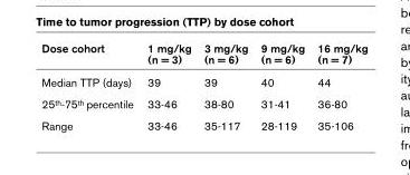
<table><thead><tr><td>Dose cohort</td><td>1 mg/kg (n = 3)</td><td>3 mg/kg (n = 6)</td><td>9 mg/kg (n = 6)</td><td>16 mg/kg (n = 7)</td></tr></thead><tbody><tr><td>Median TTP (days)</td><td>39</td><td>39</td><td>40</td><td>44</td></tr><tr><td>25<sup>th</sup>-75<sup>th</sup> percentile</td><td>33-46</td><td>38-80</td><td>31-41</td><td>36-80</td></tr><tr><td>Range</td><td>33-46</td><td>35-117</td><td>28-119</td><td>35-106</td></tr></tbody></table>